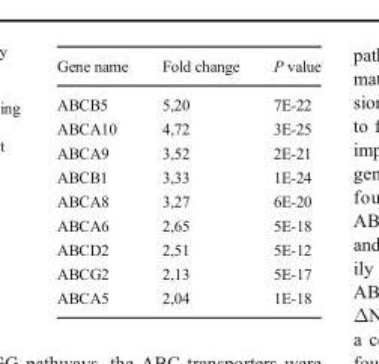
<table><thead><tr><td>Gene name</td><td>Fold change</td><td>P value</td></tr></thead><tbody><tr><td>ABCB5</td><td>5,20</td><td>7E-22</td></tr><tr><td>ABCA10</td><td>4,72</td><td>3E-25</td></tr><tr><td>ABCA9</td><td>3,52</td><td>2E-21</td></tr><tr><td>ABCB1</td><td>3,33</td><td>1E-24</td></tr><tr><td>ABCA8</td><td>3,27</td><td>6E-20</td></tr><tr><td>ABCA6</td><td>2,65</td><td>5E-18</td></tr><tr><td>ABCD2</td><td>2,51</td><td>5E-12</td></tr><tr><td>ABCG2</td><td>2,13</td><td>5E-17</td></tr><tr><td>ABCA5</td><td>2,04</td><td>1E-18</td></tr></tbody></table>